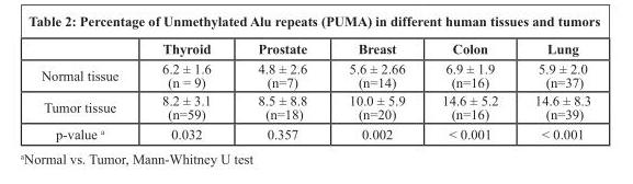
<table><thead><tr><td></td><td>Thyroid</td><td>Prostate</td><td>Breast</td><td>Colon</td><td>Lung</td></tr></thead><tbody><tr><td>Normal tissue</td><td>6.2 ± 1.6 (n = 9)</td><td>4.8 ± 2.6 (n=7)</td><td>5.6 ± 2.66 (n=14)</td><td>6.9 ± 1.9 (n=16)</td><td>5.9 ± 2.0 (n=37)</td></tr><tr><td>Tumor tissue</td><td>8.2 ± 3.1 (n=59)</td><td>8.5 ± 8.8 (n=18)</td><td>10.0 ± 5.9 (n=20)</td><td>14.6 ± 5.2 (n=16)</td><td>14.6 ± 8.3 (n=39)</td></tr><tr><td>p-value <sup>a</sup></td><td>0.032</td><td>0.357</td><td>0.002</td><td>&lt; 0.001</td><td>&lt; 0.001</td></tr></tbody></table>